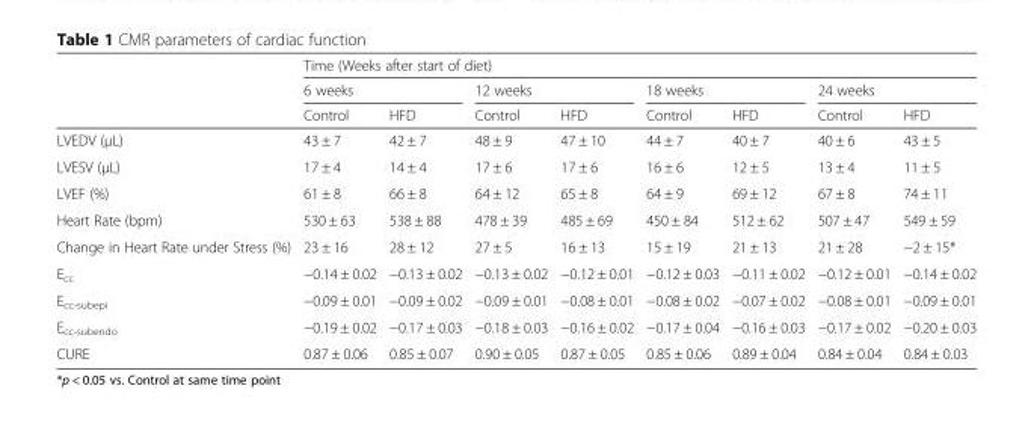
<table><thead><tr><td rowspan="3"></td><td colspan="8">Time (Weeks after start of diet)</td></tr><tr><td colspan="2">6 weeks</td><td colspan="2">12 weeks</td><td colspan="2">18 weeks</td><td colspan="2">24 weeks</td></tr><tr><td>Control</td><td>HFD</td><td>Control</td><td>HFD</td><td>Control</td><td>HFD</td><td>Control</td><td>HFD</td></tr></thead><tbody><tr><td>LVEDV (μL)</td><td>43 ± 7</td><td>42 ± 7</td><td>48 ± 9</td><td>47 ± 10</td><td>44 ± 7</td><td>40 ± 7</td><td>40 ± 6</td><td>43 ± 5</td></tr><tr><td>LVESV (μL)</td><td>17 ± 4</td><td>14 ± 4</td><td>17 ± 6</td><td>17 ± 6</td><td>16 ± 6</td><td>12 ± 5</td><td>13 ± 4</td><td>11 ± 5</td></tr><tr><td>LVEF (%)</td><td>61 ± 8</td><td>66 ± 8</td><td>64 ± 12</td><td>65 ± 8</td><td>64 ± 9</td><td>69 ± 12</td><td>67 ± 8</td><td>74 ± 11</td></tr><tr><td>Heart Rate (bpm)</td><td>530 ± 63</td><td>538 ± 88</td><td>478 ± 39</td><td>485 ± 69</td><td>450 ± 84</td><td>512 ± 62</td><td>507 ± 47</td><td>549 ± 59</td></tr><tr><td>Change in Heart Rate under Stress (%)</td><td>23 ± 16</td><td>28 ± 12</td><td>27 ± 5</td><td>16 ± 13</td><td>15 ± 19</td><td>21 ± 13</td><td>21 ± 28</td><td>−2 ± 15*</td></tr><tr><td>E<sub>cc</sub></td><td>−0.14 ± 0.02</td><td>−0.13 ± 0.02</td><td>−0.13 ± 0.02</td><td>−0.12 ± 0.01</td><td>−0.12 ± 0.03</td><td>−0.11 ± 0.02</td><td>−0.12 ± 0.01</td><td>−0.14 ± 0.02</td></tr><tr><td>E<sub>cc-subepi</sub></td><td>−0.09 ± 0.01</td><td>−0.09 ± 0.02</td><td>−0.09 ± 0.01</td><td>−0.08 ± 0.01</td><td>−0.08 ± 0.02</td><td>−0.07 ± 0.02</td><td>−0.08 ± 0.01</td><td>−0.09 ± 0.01</td></tr><tr><td>E<sub>cc-subendo</sub></td><td>−0.19 ± 0.02</td><td>−0.17 ± 0.03</td><td>−0.18 ± 0.03</td><td>−0.16 ± 0.02</td><td>−0.17 ± 0.04</td><td>−0.16 ± 0.03</td><td>−0.17 ± 0.02</td><td>−0.20 ± 0.03</td></tr><tr><td>CURE</td><td>0.87 ± 0.06</td><td>0.85 ± 0.07</td><td>0.90 ± 0.05</td><td>0.87 ± 0.05</td><td>0.85 ± 0.06</td><td>0.89 ± 0.04</td><td>0.84 ± 0.04</td><td>0.84 ± 0.03</td></tr></tbody></table>